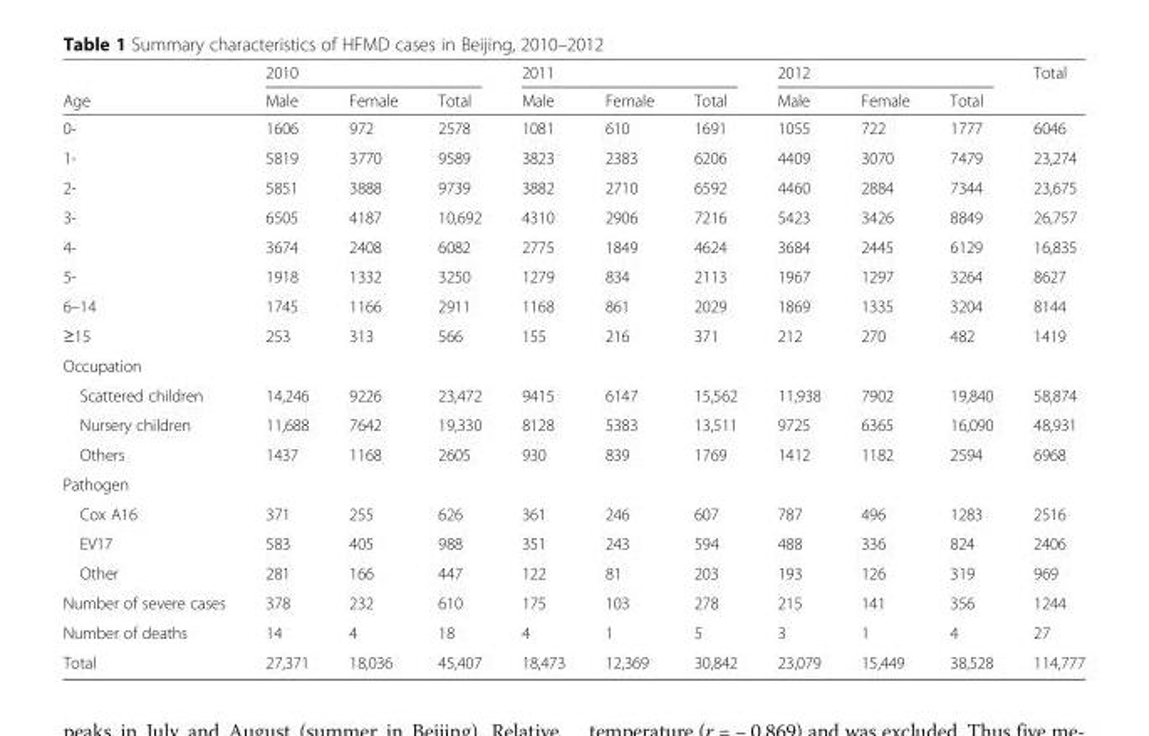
<table><thead><tr><td rowspan="2">Age</td><td colspan="3">2010</td><td colspan="3">2011</td><td colspan="3">2012</td><td rowspan="2">Total</td></tr><tr><td>Male</td><td>Female</td><td>Total</td><td>Male</td><td>Female</td><td>Total</td><td>Male</td><td>Female</td><td>Total</td></tr></thead><tbody><tr><td>0-</td><td>1606</td><td>972</td><td>2578</td><td>1081</td><td>610</td><td>1691</td><td>1055</td><td>722</td><td>1777</td><td>6046</td></tr><tr><td>1-</td><td>5819</td><td>3770</td><td>9589</td><td>3823</td><td>2383</td><td>6206</td><td>4409</td><td>3070</td><td>7479</td><td>23,274</td></tr><tr><td>2-</td><td>5851</td><td>3888</td><td>9739</td><td>3882</td><td>2710</td><td>6592</td><td>4460</td><td>2884</td><td>7344</td><td>23,675</td></tr><tr><td>3-</td><td>6505</td><td>4187</td><td>10,692</td><td>4310</td><td>2906</td><td>7216</td><td>5423</td><td>3426</td><td>8849</td><td>26,757</td></tr><tr><td>4-</td><td>3674</td><td>2408</td><td>6082</td><td>2775</td><td>1849</td><td>4624</td><td>3684</td><td>2445</td><td>6129</td><td>16,835</td></tr><tr><td>5-</td><td>1918</td><td>1332</td><td>3250</td><td>1279</td><td>834</td><td>2113</td><td>1967</td><td>1297</td><td>3264</td><td>8627</td></tr><tr><td>6–14</td><td>1745</td><td>1166</td><td>2911</td><td>1168</td><td>861</td><td>2029</td><td>1869</td><td>1335</td><td>3204</td><td>8144</td></tr><tr><td>≥15</td><td>253</td><td>313</td><td>566</td><td>155</td><td>216</td><td>371</td><td>212</td><td>270</td><td>482</td><td>1419</td></tr><tr><td colspan="11">Occupation</td></tr><tr><td>Scattered children</td><td>14,246</td><td>9226</td><td>23,472</td><td>9415</td><td>6147</td><td>15,562</td><td>11,938</td><td>7902</td><td>19,840</td><td>58,874</td></tr><tr><td>Nursery children</td><td>11,688</td><td>7642</td><td>19,330</td><td>8128</td><td>5383</td><td>13,511</td><td>9725</td><td>6365</td><td>16,090</td><td>48,931</td></tr><tr><td>Others</td><td>1437</td><td>1168</td><td>2605</td><td>930</td><td>839</td><td>1769</td><td>1412</td><td>1182</td><td>2594</td><td>6968</td></tr><tr><td colspan="11">Pathogen</td></tr><tr><td>Cox A16</td><td>371</td><td>255</td><td>626</td><td>361</td><td>246</td><td>607</td><td>787</td><td>496</td><td>1283</td><td>2516</td></tr><tr><td>EV17</td><td>583</td><td>405</td><td>988</td><td>351</td><td>243</td><td>594</td><td>488</td><td>336</td><td>824</td><td>2406</td></tr><tr><td>Other</td><td>281</td><td>166</td><td>447</td><td>122</td><td>81</td><td>203</td><td>193</td><td>126</td><td>319</td><td>969</td></tr><tr><td>Number of severe cases</td><td>378</td><td>232</td><td>610</td><td>175</td><td>103</td><td>278</td><td>215</td><td>141</td><td>356</td><td>1244</td></tr><tr><td>Number of deaths</td><td>14</td><td>4</td><td>18</td><td>4</td><td>1</td><td>5</td><td>3</td><td>1</td><td>4</td><td>27</td></tr><tr><td>Total</td><td>27,371</td><td>18,036</td><td>45,407</td><td>18,473</td><td>12,369</td><td>30,842</td><td>23,079</td><td>15,449</td><td>38,528</td><td>114,777</td></tr></tbody></table>